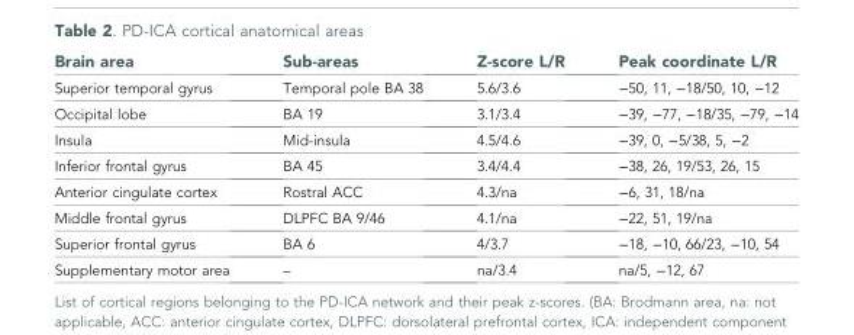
<table><thead><tr><td>Brain area</td><td>Sub-areas</td><td>Z-score L/R</td><td>Peak coordinate L/R</td></tr></thead><tbody><tr><td>Superior temporal gyrus</td><td>Temporal pole BA 38</td><td>5.6/3.6</td><td>−50, 11, −18/50, 10, −12</td></tr><tr><td>Occipital lobe</td><td>BA 19</td><td>3.1/3.4</td><td>−39, −77, −18/35, −79, −14</td></tr><tr><td>Insula</td><td>Mid-insula</td><td>4.5/4.6</td><td>−39, 0, −5/38, 5, −2</td></tr><tr><td>Inferior frontal gyrus</td><td>BA 45</td><td>3.4/4.4</td><td>−38, 26, 19/53, 26, 15</td></tr><tr><td>Anterior cingulate cortex</td><td>Rostral ACC</td><td>4.3/na</td><td>−6, 31, 18/na</td></tr><tr><td>Middle frontal gyrus</td><td>DLPFC BA 9/46</td><td>4.1/na</td><td>−22, 51, 19/na</td></tr><tr><td>Superior frontal gyrus</td><td>BA 6</td><td>4/3.7</td><td>−18, −10, 66/23, −10, 54</td></tr><tr><td>Supplementary motor area</td><td>–</td><td>na/3.4</td><td>na/5, −12, 67</td></tr></tbody></table>